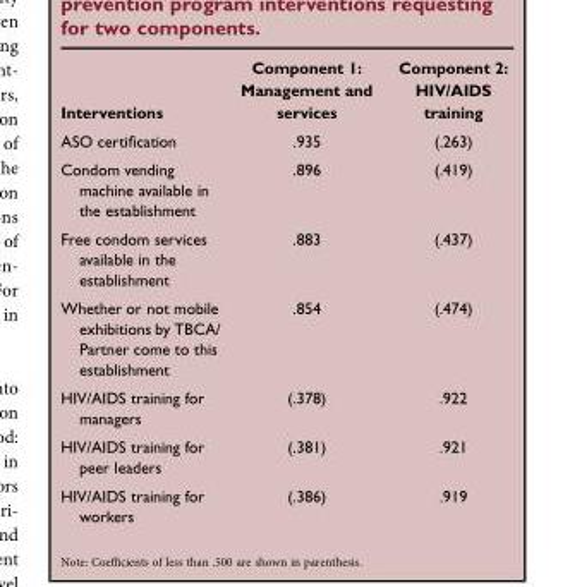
<table><thead><tr><td>Interventions</td><td>Component 1: Management and services</td><td>Component 2: HIV/AIDS training</td></tr></thead><tbody><tr><td>ASO certification</td><td>.935</td><td>(.263)</td></tr><tr><td>Condom vending machine available in the establishment</td><td>.896</td><td>(.419)</td></tr><tr><td>Free condom services available in the establishment</td><td>.883</td><td>(.437)</td></tr><tr><td>Whether or not mobile exhibitions by TBCA/ Partner come to this establishment</td><td>.854</td><td>(.474)</td></tr><tr><td>HIV/AIDS training for managers</td><td>(.378)</td><td>.922</td></tr><tr><td>HIV/AIDS training for peer leaders</td><td>(.381)</td><td>.921</td></tr><tr><td>HIV/AIDS training for workers</td><td>(.386)</td><td>.919</td></tr></tbody></table>